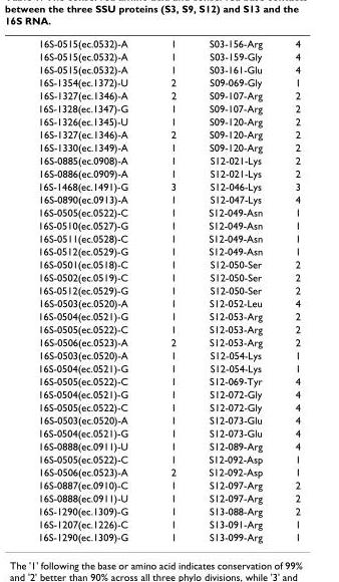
<table><tbody><tr><td>16S-0515(ec.0532)-A</td><td>1</td><td>S03-156-Arg</td><td>4</td></tr><tr><td>16S-0515(ec.0532)-A</td><td>1</td><td>S03-159-Gly</td><td>4</td></tr><tr><td>16S-0515(ec.0532)-A</td><td>1</td><td>S03-161-Glu</td><td>4</td></tr><tr><td>16S-1354(ec.1372)-U</td><td>2</td><td>S09-069-Gly</td><td>1</td></tr><tr><td>16S-1327(ec.1346)-A</td><td>2</td><td>S09-107-Arg</td><td>2</td></tr><tr><td>16S-1328(ec.1347)-G</td><td>1</td><td>S09-107-Arg</td><td>2</td></tr><tr><td>16S-1326(ec.1345)-U</td><td>1</td><td>S09-120-Arg</td><td>2</td></tr><tr><td>16S-1327(ec.1346)-A</td><td>2</td><td>S09-120-Arg</td><td>2</td></tr><tr><td>16S-1330(ec.1349)-A</td><td>1</td><td>S09-120-Arg</td><td>2</td></tr><tr><td>16S-0885(ec.0908)-A</td><td>1</td><td>S12-021-Lys</td><td>2</td></tr><tr><td>16S-0886(ec.0909)-A</td><td>1</td><td>S12-021-Lys</td><td>2</td></tr><tr><td>16S-1468(ec.1491)-G</td><td>3</td><td>S12-046-Lys</td><td>3</td></tr><tr><td>16S-0890(ec.0913)-A</td><td>1</td><td>S12-047-Lys</td><td>4</td></tr><tr><td>16S-0505(ec.0522)-C</td><td>1</td><td>S12-049-Asn</td><td>1</td></tr><tr><td>16S-0510(ec.0527)-G</td><td>1</td><td>S12-049-Asn</td><td>1</td></tr><tr><td>16S-0511(ec.0528)-C</td><td>1</td><td>S12-049-Asn</td><td>1</td></tr><tr><td>16S-0512(ec.0529)-G</td><td>1</td><td>S12-049-Asn</td><td>1</td></tr><tr><td>16S-0501(ec.0518)-C</td><td>1</td><td>S12-050-Ser</td><td>2</td></tr><tr><td>16S-0502(ec.0519)-C</td><td>1</td><td>S12-050-Ser</td><td>2</td></tr><tr><td>16S-0512(ec.0529)-G</td><td>1</td><td>S12-050-Ser</td><td>2</td></tr><tr><td>16S-0503(ec.0520)-A</td><td>1</td><td>S12-052-Leu</td><td>4</td></tr><tr><td>16S-0504(ec.0521)-G</td><td>1</td><td>S12-053-Arg</td><td>2</td></tr><tr><td>16S-0505(ec.0522)-C</td><td>1</td><td>S12-053-Arg</td><td>2</td></tr><tr><td>16S-0506(ec.0523)-A</td><td>2</td><td>S12-053-Arg</td><td>2</td></tr><tr><td>16S-0503(ec.0520)-A</td><td>1</td><td>S12-054-Lys</td><td>1</td></tr><tr><td>16S-0504(ec.0521)-G</td><td>1</td><td>S12-054-Lys</td><td>1</td></tr><tr><td>16S-0505(ec.0522)-C</td><td>1</td><td>S12-069-Tyr</td><td>4</td></tr><tr><td>16S-0504(ec.0521)-G</td><td>1</td><td>S12-072-Gly</td><td>4</td></tr><tr><td>16S-0505(ec.0522)-C</td><td>1</td><td>S12-072-Gly</td><td>4</td></tr><tr><td>16S-0503(ec.0520)-A</td><td>1</td><td>S12-073-Glu</td><td>4</td></tr><tr><td>16S-0504(ec.0521)-G</td><td>1</td><td>S12-073-Glu</td><td>4</td></tr><tr><td>16S-0888(ec.0911)-U</td><td>1</td><td>S12-089-Arg</td><td>4</td></tr><tr><td>16S-0505(ec.0522)-C</td><td>1</td><td>S12-092-Asp</td><td>1</td></tr><tr><td>16S-0506(ec.0523)-A</td><td>2</td><td>S12-092-Asp</td><td>1</td></tr><tr><td>16S-0887(ec.0910)-C</td><td>1</td><td>S12-097-Arg</td><td>2</td></tr><tr><td>16S-0888(ec.0911)-U</td><td>1</td><td>S12-097-Arg</td><td>2</td></tr><tr><td>16S-1290(ec.1309)-G</td><td>1</td><td>S13-088-Arg</td><td>2</td></tr><tr><td>16S-1207(ec.1226)-C</td><td>1</td><td>S13-091-Arg</td><td>1</td></tr><tr><td>16S-1290(ec.1309)-G</td><td>1</td><td>S13-099-Arg</td><td>1</td></tr></tbody></table>